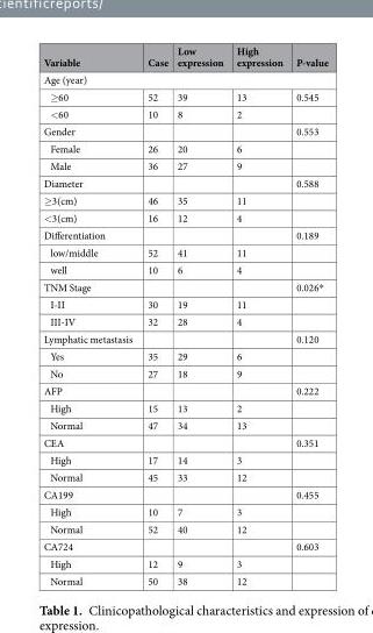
<table><thead><tr><td>Variable</td><td>Case</td><td>Low expression</td><td>High expression</td><td>P-value</td></tr></thead><tbody><tr><td colspan="5">Age (year)</td></tr><tr><td>≥60</td><td>52</td><td>39</td><td>13</td><td>0.545</td></tr><tr><td>&lt;60</td><td>10</td><td>8</td><td>2</td><td></td></tr><tr><td>Gender</td><td></td><td></td><td></td><td>0.553</td></tr><tr><td>Female</td><td>26</td><td>20</td><td>6</td><td></td></tr><tr><td>Male</td><td>36</td><td>27</td><td>9</td><td></td></tr><tr><td>Diameter</td><td></td><td></td><td></td><td>0.588</td></tr><tr><td>≥3(cm)</td><td>46</td><td>35</td><td>11</td><td></td></tr><tr><td>&lt;3(cm)</td><td>16</td><td>12</td><td>4</td><td></td></tr><tr><td>Differentiation</td><td></td><td></td><td></td><td>0.189</td></tr><tr><td>low/middle</td><td>52</td><td>41</td><td>11</td><td></td></tr><tr><td>well</td><td>10</td><td>6</td><td>4</td><td></td></tr><tr><td>TNM Stage</td><td></td><td></td><td></td><td>0.026*</td></tr><tr><td>I-II</td><td>30</td><td>19</td><td>11</td><td></td></tr><tr><td>III-IV</td><td>32</td><td>28</td><td>4</td><td></td></tr><tr><td>Lymphatic metastasis</td><td></td><td></td><td></td><td>0.120</td></tr><tr><td>Yes</td><td>35</td><td>29</td><td>6</td><td></td></tr><tr><td>No</td><td>27</td><td>18</td><td>9</td><td></td></tr><tr><td>AFP</td><td></td><td></td><td></td><td>0.222</td></tr><tr><td>High</td><td>15</td><td>13</td><td>2</td><td></td></tr><tr><td>Normal</td><td>47</td><td>34</td><td>13</td><td></td></tr><tr><td>CEA</td><td></td><td></td><td></td><td>0.351</td></tr><tr><td>High</td><td>17</td><td>14</td><td>3</td><td></td></tr><tr><td>Normal</td><td>45</td><td>33</td><td>12</td><td></td></tr><tr><td>CA199</td><td></td><td></td><td></td><td>0.455</td></tr><tr><td>High</td><td>10</td><td>7</td><td>3</td><td></td></tr><tr><td>Normal</td><td>52</td><td>40</td><td>12</td><td></td></tr><tr><td>CA724</td><td></td><td></td><td></td><td>0.603</td></tr><tr><td>High</td><td>12</td><td>9</td><td>3</td><td></td></tr><tr><td>Normal</td><td>50</td><td>38</td><td>12</td><td></td></tr></tbody></table>